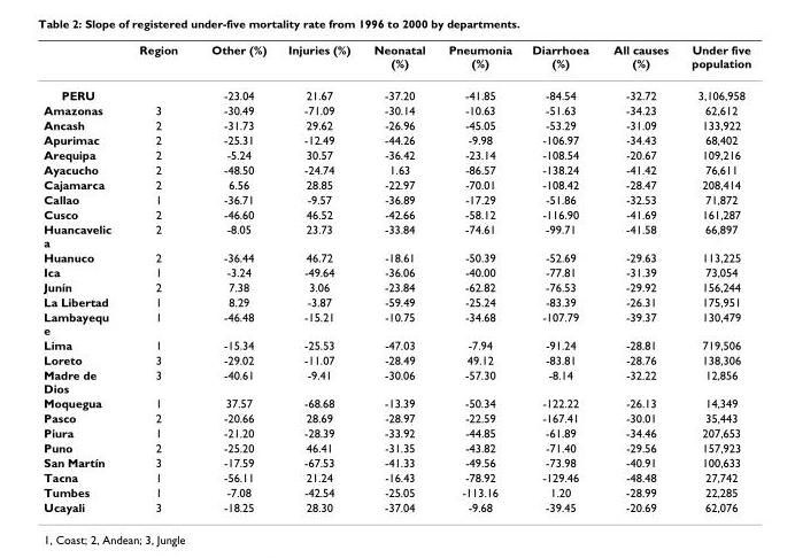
<table><thead><tr><td></td><td>Region</td><td>Other (%)</td><td>Injuries (%)</td><td>Neonatal (%)</td><td>Pneumonia (%)</td><td>Diarrhoea (%)</td><td>All causes (%)</td><td>Under five population</td></tr></thead><tbody><tr><td>PERU</td><td></td><td>-23.04</td><td>21.67</td><td>-37.20</td><td>-41.85</td><td>-84.54</td><td>-32.72</td><td>3,106,958</td></tr><tr><td>Amazonas</td><td>3</td><td>-30.49</td><td>-71.09</td><td>-30.14</td><td>-10.63</td><td>-51.63</td><td>-34.23</td><td>62,612</td></tr><tr><td>Ancash</td><td>2</td><td>-31.73</td><td>29.62</td><td>-26.96</td><td>-45.05</td><td>-53.29</td><td>-31.09</td><td>133,922</td></tr><tr><td>Apurimac</td><td>2</td><td>-25.31</td><td>-12.49</td><td>-44.26</td><td>-9.98</td><td>-106.97</td><td>-34.43</td><td>68,402</td></tr><tr><td>Arequipa</td><td>2</td><td>-5.24</td><td>30.57</td><td>-36.42</td><td>-23.14</td><td>-108.54</td><td>-20.67</td><td>109,216</td></tr><tr><td>Ayacucho</td><td>2</td><td>-48.50</td><td>-24.74</td><td>1.63</td><td>-86.57</td><td>-138.24</td><td>-41.42</td><td>76,611</td></tr><tr><td>Cajamarca</td><td>2</td><td>6.56</td><td>28.85</td><td>-22.97</td><td>-70.01</td><td>-108.42</td><td>-28.47</td><td>208,414</td></tr><tr><td>Callao</td><td>1</td><td>-36.71</td><td>-9.57</td><td>-36.89</td><td>-17.29</td><td>-51.86</td><td>-32.53</td><td>71,872</td></tr><tr><td>Cusco</td><td>2</td><td>-46.60</td><td>46.52</td><td>-42.66</td><td>-58.12</td><td>-116.90</td><td>-41.69</td><td>161,287</td></tr><tr><td>Huancavelic a</td><td>2</td><td>-8.05</td><td>23.73</td><td>-33.84</td><td>-74.61</td><td>-99.71</td><td>-41.58</td><td>66,897</td></tr><tr><td>Huanuco</td><td>2</td><td>-36.44</td><td>46.72</td><td>-18.61</td><td>-50.39</td><td>-52.69</td><td>-29.63</td><td>113,225</td></tr><tr><td>Ica</td><td>1</td><td>-3.24</td><td>-49.64</td><td>-36.06</td><td>-40.00</td><td>-77.81</td><td>-31.39</td><td>73,054</td></tr><tr><td>Junín</td><td>2</td><td>7.38</td><td>3.06</td><td>-23.84</td><td>-62.82</td><td>-76.53</td><td>-29.92</td><td>156,244</td></tr><tr><td>La Libertad</td><td>1</td><td>8.29</td><td>-3.87</td><td>-59.49</td><td>-25.24</td><td>-83.39</td><td>-26.31</td><td>175,951</td></tr><tr><td>Lambayequ e</td><td>1</td><td>-46.48</td><td>-15.21</td><td>-10.75</td><td>-34.68</td><td>-107.79</td><td>-39.37</td><td>130,479</td></tr><tr><td>Lima</td><td>1</td><td>-15.34</td><td>-25.53</td><td>-47.03</td><td>-7.94</td><td>-91.24</td><td>-28.81</td><td>719,506</td></tr><tr><td>Loreto</td><td>3</td><td>-29.02</td><td>-11.07</td><td>-28.49</td><td>49.12</td><td>-83.81</td><td>-28.76</td><td>138,306</td></tr><tr><td>Madre de Dios</td><td>3</td><td>-40.61</td><td>-9.41</td><td>-30.06</td><td>-57.30</td><td>-8.14</td><td>-32.22</td><td>12,856</td></tr><tr><td>Moquegua</td><td>1</td><td>37.57</td><td>-68.68</td><td>-13.39</td><td>-50.34</td><td>-122.22</td><td>-26.13</td><td>14,349</td></tr><tr><td>Pasco</td><td>2</td><td>-20.66</td><td>28.69</td><td>-28.97</td><td>-22.59</td><td>-167.41</td><td>-30.01</td><td>35,443</td></tr><tr><td>Piura</td><td>1</td><td>-21.20</td><td>-28.39</td><td>-33.92</td><td>-44.85</td><td>-61.89</td><td>-34.46</td><td>207,653</td></tr><tr><td>Puno</td><td>2</td><td>-25.20</td><td>46.41</td><td>-31.35</td><td>-43.82</td><td>-71.40</td><td>-29.56</td><td>157,923</td></tr><tr><td>San Martín</td><td>3</td><td>-17.59</td><td>-67.53</td><td>-41.33</td><td>-49.56</td><td>-73.98</td><td>-40.91</td><td>100,633</td></tr><tr><td>Tacna</td><td>1</td><td>-56.11</td><td>21.24</td><td>-16.43</td><td>-78.92</td><td>-129.46</td><td>-48.48</td><td>27,742</td></tr><tr><td>Tumbes</td><td>1</td><td>-7.08</td><td>-42.54</td><td>-25.05</td><td>-113.16</td><td>1.20</td><td>-28.99</td><td>22,285</td></tr><tr><td>Ucayali</td><td>3</td><td>-18.25</td><td>28.30</td><td>-37.04</td><td>-9.68</td><td>-39.45</td><td>-20.69</td><td>62,076</td></tr></tbody></table>